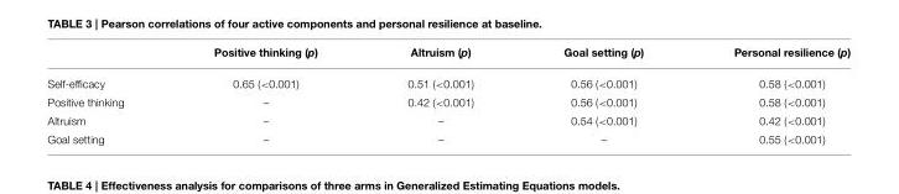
<table><thead><tr><td></td><td>Positive thinking (p)</td><td>Altruism (p)</td><td>Goal setting (p)</td><td>Personal resilience (p)</td></tr></thead><tbody><tr><td>Self-efficacy</td><td>0.65 (&lt;0.001)</td><td>0.51 (&lt;0.001)</td><td>0.56 (&lt;0.001)</td><td>0.58 (&lt;0.001)</td></tr><tr><td>Positive thinking</td><td>–</td><td>0.42 (&lt;0.001)</td><td>0.56 (&lt;0.001)</td><td>0.58 (&lt;0.001)</td></tr><tr><td>Altruism</td><td>–</td><td>–</td><td>0.54 (&lt;0.001)</td><td>0.42 (&lt;0.001)</td></tr><tr><td>Goal setting</td><td>–</td><td>–</td><td>–</td><td>0.55 (&lt;0.001)</td></tr></tbody></table>